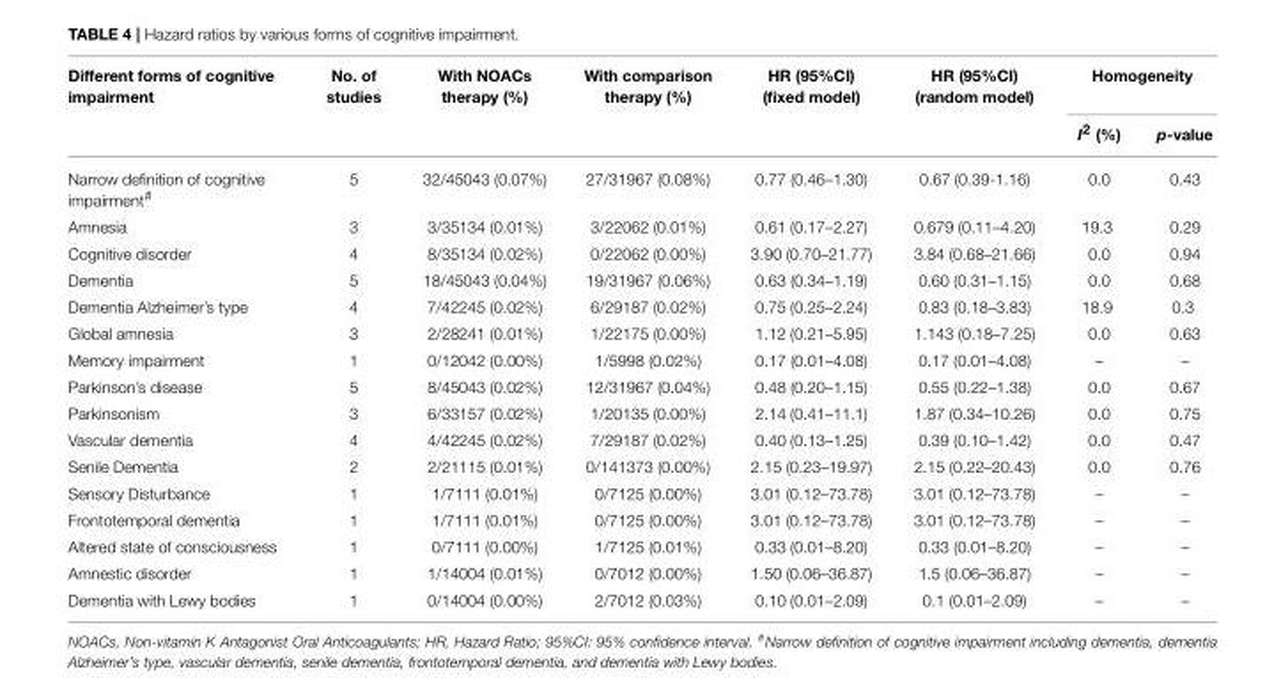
<table><thead><tr><td rowspan="2">Different forms of cognitive impairment</td><td rowspan="2">No. of studies</td><td rowspan="2">With NOACs therapy (%)</td><td rowspan="2">With comparison therapy (%)</td><td rowspan="2">HR (95%CI) (fixed model)</td><td rowspan="2">HR (95%CI) (random model)</td><td colspan="2">Homogeneity</td></tr><tr><td>I<sup>2</sup> (%)</td><td>p-value</td></tr></thead><tbody><tr><td>Narrow definition of cognitive impairment<sup>#</sup></td><td>5</td><td>32/45043 (0.07%)</td><td>27/31967 (0.08%)</td><td>0.77 (0.46–1.30)</td><td>0.67 (0.39-1.16)</td><td>0.0</td><td>0.43</td></tr><tr><td>Amnesia</td><td>3</td><td>3/35134 (0.01%)</td><td>3/22062 (0.01%)</td><td>0.61 (0.17–2.27)</td><td>0.679 (0.11–4.20)</td><td>19.3</td><td>0.29</td></tr><tr><td>Cognitive disorder</td><td>4</td><td>8/35134 (0.02%)</td><td>0/22062 (0.00%)</td><td>3.90 (0.70–21.77)</td><td>3.84 (0.68–21.66)</td><td>0.0</td><td>0.94</td></tr><tr><td>Dementia</td><td>5</td><td>18/45043 (0.04%)</td><td>19/31967 (0.06%)</td><td>0.63 (0.34–1.19)</td><td>0.60 (0.31–1.15)</td><td>0.0</td><td>0.68</td></tr><tr><td>Dementia Alzheimer’s type</td><td>4</td><td>7/42245 (0.02%)</td><td>6/29187 (0.02%)</td><td>0.75 (0.25–2.24)</td><td>0.83 (0.18–3.83)</td><td>18.9</td><td>0.3</td></tr><tr><td>Global amnesia</td><td>3</td><td>2/28241 (0.01%)</td><td>1/22175 (0.00%)</td><td>1.12 (0.21–5.95)</td><td>1.143 (0.18–7.25)</td><td>0.0</td><td>0.63</td></tr><tr><td>Memory impairment</td><td>1</td><td>0/12042 (0.00%)</td><td>1/5998 (0.02%)</td><td>0.17 (0.01–4.08)</td><td>0.17 (0.01–4.08)</td><td>–</td><td>–</td></tr><tr><td>Parkinson’s disease</td><td>5</td><td>8/45043 (0.02%)</td><td>12/31967 (0.04%)</td><td>0.48 (0.20–1.15)</td><td>0.55 (0.22–1.38)</td><td>0.0</td><td>0.67</td></tr><tr><td>Parkinsonism</td><td>3</td><td>6/33157 (0.02%)</td><td>1/20135 (0.00%)</td><td>2.14 (0.41–11.1)</td><td>1.87 (0.34–10.26)</td><td>0.0</td><td>0.75</td></tr><tr><td>Vascular dementia</td><td>4</td><td>4/42245 (0.02%)</td><td>7/29187 (0.02%)</td><td>0.40 (0.13–1.25)</td><td>0.39 (0.10–1.42)</td><td>0.0</td><td>0.47</td></tr><tr><td>Senile Dementia</td><td>2</td><td>2/21115 (0.01%)</td><td>0/141373 (0.00%)</td><td>2.15 (0.23–19.97)</td><td>2.15 (0.22–20.43)</td><td>0.0</td><td>0.76</td></tr><tr><td>Sensory Disturbance</td><td>1</td><td>1/7111 (0.01%)</td><td>0/7125 (0.00%)</td><td>3.01 (0.12–73.78)</td><td>3.01 (0.12–73.78)</td><td>–</td><td>–</td></tr><tr><td>Frontotemporal dementia</td><td>1</td><td>1/7111 (0.01%)</td><td>0/7125 (0.00%)</td><td>3.01 (0.12–73.78)</td><td>3.01 (0.12–73.78)</td><td>–</td><td>–</td></tr><tr><td>Altered state of consciousness</td><td>1</td><td>0/7111 (0.00%)</td><td>1/7125 (0.01%)</td><td>0.33 (0.01–8.20)</td><td>0.33 (0.01–8.20)</td><td>–</td><td>–</td></tr><tr><td>Amnestic disorder</td><td>1</td><td>1/14004 (0.01%)</td><td>0/7012 (0.00%)</td><td>1.50 (0.06–36.87)</td><td>1.5 (0.06–36.87)</td><td>–</td><td>–</td></tr><tr><td>Dementia with Lewy bodies</td><td>1</td><td>0/14004 (0.00%)</td><td>2/7012 (0.03%)</td><td>0.10 (0.01–2.09)</td><td>0.1 (0.01–2.09)</td><td>–</td><td>–</td></tr></tbody></table>